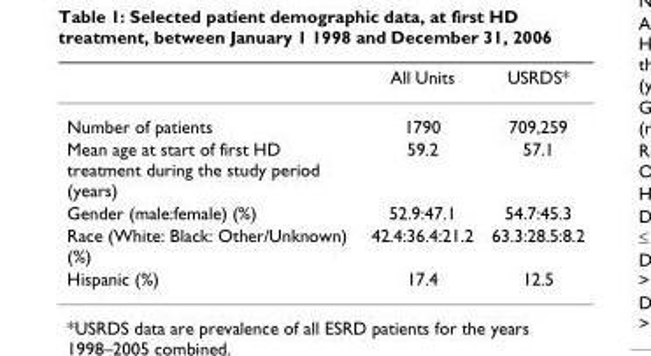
<table><thead><tr><td></td><td>All Units</td><td>USRDS*</td></tr></thead><tbody><tr><td>Number of patients</td><td>1790</td><td>709,259</td></tr><tr><td>Mean age at start of first HD treatment during the study period (years)</td><td>59.2</td><td>57.1</td></tr><tr><td>Gender (male:female) (%)</td><td>52.9:47.1</td><td>54.7:45.3</td></tr><tr><td>Race (White: Black: Other/Unknown) (%)</td><td>42.4:36.4:21.2</td><td>63.3:28.5:8.2</td></tr><tr><td>Hispanic (%)</td><td>17.4</td><td>12.5</td></tr></tbody></table>